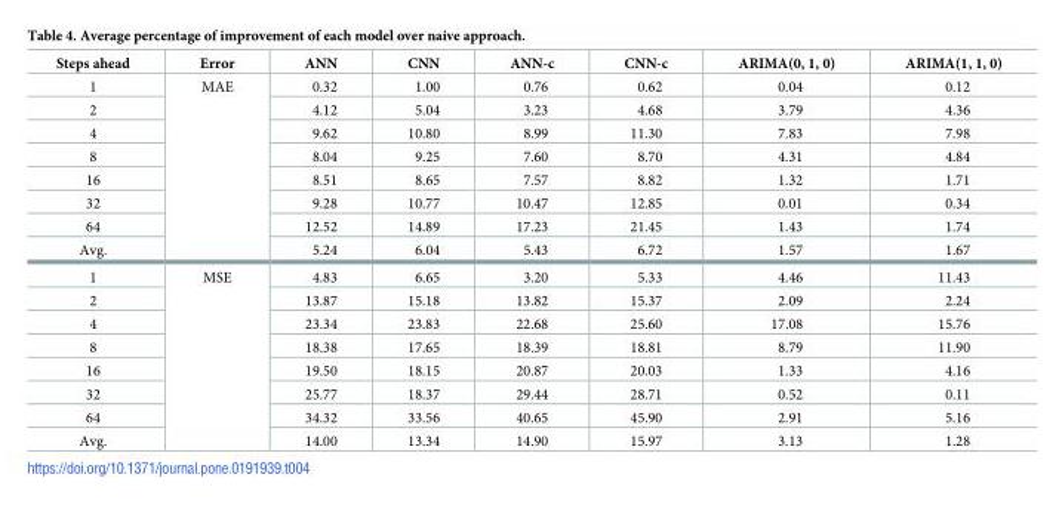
<table><thead><tr><td>Steps ahead</td><td>Error</td><td>ANN</td><td>CNN</td><td>ANN-c</td><td>CNN-c</td><td>ARIMA(0, 1, 0)</td><td>ARIMA(1, 1, 0)</td></tr></thead><tbody><tr><td>1</td><td rowspan="8">MAE</td><td>0.32</td><td>1.00</td><td>0.76</td><td>0.62</td><td>0.04</td><td>0.12</td></tr><tr><td>2</td><td>4.12</td><td>5.04</td><td>3.23</td><td>4.68</td><td>3.79</td><td>4.36</td></tr><tr><td>4</td><td>9.62</td><td>10.80</td><td>8.99</td><td>11.30</td><td>7.83</td><td>7.98</td></tr><tr><td>8</td><td>8.04</td><td>9.25</td><td>7.60</td><td>8.70</td><td>4.31</td><td>4.84</td></tr><tr><td>16</td><td>8.51</td><td>8.65</td><td>7.57</td><td>8.82</td><td>1.32</td><td>1.71</td></tr><tr><td>32</td><td>9.28</td><td>10.77</td><td>10.47</td><td>12.85</td><td>0.01</td><td>0.34</td></tr><tr><td>64</td><td>12.52</td><td>14.89</td><td>17.23</td><td>21.45</td><td>1.43</td><td>1.74</td></tr><tr><td>Avg.</td><td>5.24</td><td>6.04</td><td>5.43</td><td>6.72</td><td>1.57</td><td>1.67</td></tr><tr><td>1</td><td rowspan="8">MSE</td><td>4.83</td><td>6.65</td><td>3.20</td><td>5.33</td><td>4.46</td><td>11.43</td></tr><tr><td>2</td><td>13.87</td><td>15.18</td><td>13.82</td><td>15.37</td><td>2.09</td><td>2.24</td></tr><tr><td>4</td><td>23.34</td><td>23.83</td><td>22.68</td><td>25.60</td><td>17.08</td><td>15.76</td></tr><tr><td>8</td><td>18.38</td><td>17.65</td><td>18.39</td><td>18.81</td><td>8.79</td><td>11.90</td></tr><tr><td>16</td><td>19.50</td><td>18.15</td><td>20.87</td><td>20.03</td><td>1.33</td><td>4.16</td></tr><tr><td>32</td><td>25.77</td><td>18.37</td><td>29.44</td><td>28.71</td><td>0.52</td><td>0.11</td></tr><tr><td>64</td><td>34.32</td><td>33.56</td><td>40.65</td><td>45.90</td><td>2.91</td><td>5.16</td></tr><tr><td>Avg.</td><td>14.00</td><td>13.34</td><td>14.90</td><td>15.97</td><td>3.13</td><td>1.28</td></tr></tbody></table>